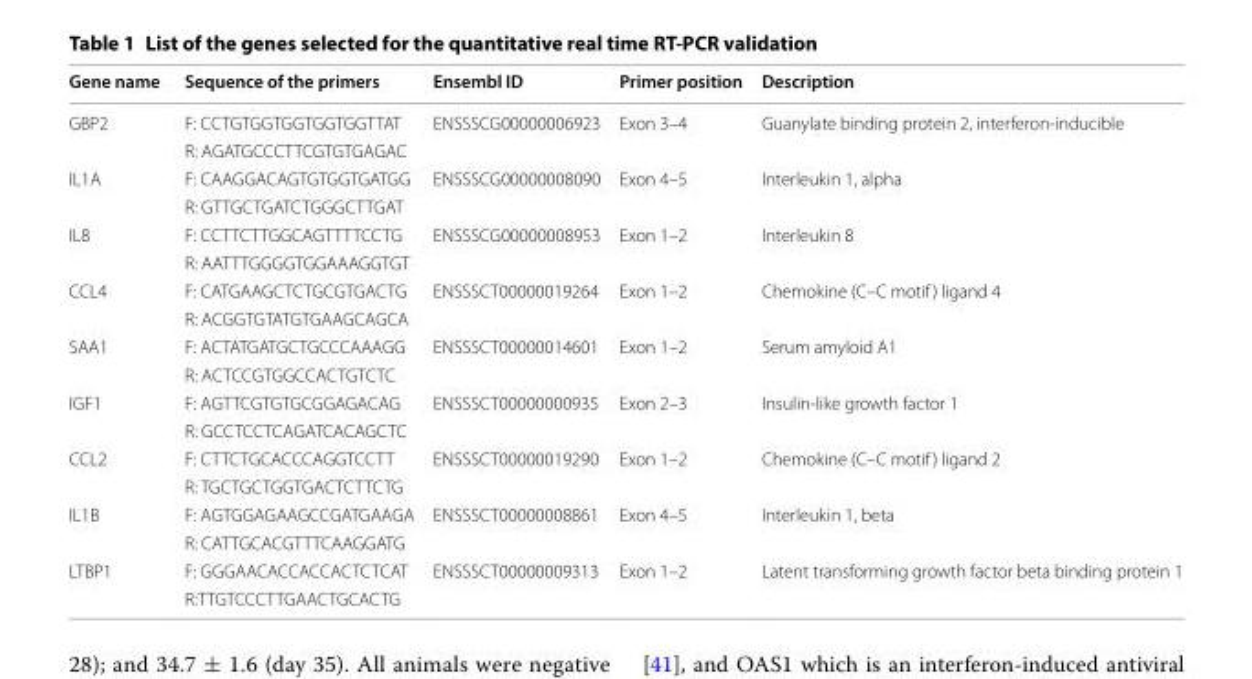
<table><thead><tr><td>Gene name</td><td>Sequence of the primers</td><td>Ensembl ID</td><td>Primer position</td><td>Description</td></tr></thead><tbody><tr><td rowspan="2">GBP2</td><td>F: CCTGTGGTGGTGGTGGTTAT</td><td rowspan="2">ENSSSCG00000006923</td><td rowspan="2">Exon 3–4</td><td rowspan="2">Guanylate binding protein 2, interferon‑inducible</td></tr><tr><td>R: AGATGCCCTTCGTGTGAGAC</td></tr><tr><td rowspan="2">IL1A</td><td>F: CAAGGACAGTGTGGTGATGG</td><td rowspan="2">ENSSSCG00000008090</td><td rowspan="2">Exon 4–5</td><td rowspan="2">Interleukin 1, alpha</td></tr><tr><td>R: GTTGCTGATCTGGGCTTGAT</td></tr><tr><td rowspan="2">IL8</td><td>F: CCTTCTTGGCAGTTTTCCTG</td><td rowspan="2">ENSSSCG00000008953</td><td rowspan="2">Exon 1–2</td><td rowspan="2">Interleukin 8</td></tr><tr><td>R: AATTTGGGGTGGAAAGGTGT</td></tr><tr><td rowspan="2">CCL4</td><td>F: CATGAAGCTCTGCGTGACTG</td><td rowspan="2">ENSSSCT00000019264</td><td rowspan="2">Exon 1–2</td><td rowspan="2">Chemokine (C–C motif) ligand 4</td></tr><tr><td>R: ACGGTGTATGTGAAGCAGCA</td></tr><tr><td rowspan="2">SAA1</td><td>F: ACTATGATGCTGCCCAAAGG</td><td rowspan="2">ENSSSCT00000014601</td><td rowspan="2">Exon 1–2</td><td rowspan="2">Serum amyloid A1</td></tr><tr><td>R: ACTCCGTGGCCACTGTCTC</td></tr><tr><td rowspan="2">IGF1</td><td>F: AGTTCGTGTGCGGAGACAG</td><td rowspan="2">ENSSSCT00000000935</td><td rowspan="2">Exon 2–3</td><td rowspan="2">Insulin‑like growth factor 1</td></tr><tr><td>R: GCCTCCTCAGATCACAGCTC</td></tr><tr><td rowspan="2">CCL2</td><td>F: CTTCTGCACCCAGGTCCTT</td><td rowspan="2">ENSSSCT00000019290</td><td rowspan="2">Exon 1–2</td><td rowspan="2">Chemokine (C–C motif) ligand 2</td></tr><tr><td>R: TGCTGCTGGTGACTCTTCTG</td></tr><tr><td rowspan="2">IL1B</td><td>F: AGTGGAGAAGCCGATGAAGA</td><td rowspan="2">ENSSSCT00000008861</td><td rowspan="2">Exon 4–5</td><td rowspan="2">Interleukin 1, beta</td></tr><tr><td>R: CATTGCACGTTTCAAGGATG</td></tr><tr><td rowspan="2">LTBP1</td><td>F: GGGAACACCACCACTCTCAT</td><td rowspan="2">ENSSSCT00000009313</td><td rowspan="2">Exon 1–2</td><td rowspan="2">Latent transforming growth factor beta binding protein 1</td></tr><tr><td>R:TTGTCCCTTGAACTGCACTG</td></tr></tbody></table>